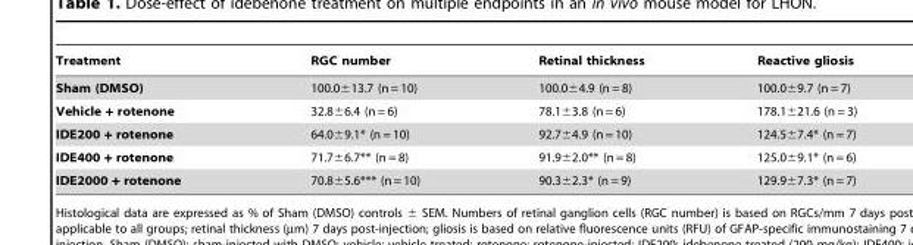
<table><thead><tr><td>Treatment</td><td>RGC number</td><td>Retinal thickness</td><td>Reactive gliosis</td></tr></thead><tbody><tr><td>Sham (DMSO)</td><td>100.0±13.7 (n = 10)</td><td>100.0±4.9 (n = 8)</td><td>100.0±9.7 (n = 7)</td></tr><tr><td>Vehicle + rotenone</td><td>32.8±6.4 (n = 6)</td><td>78.1±3.8 (n = 6)</td><td>178.1±21.6 (n = 3)</td></tr><tr><td>IDE200 + rotenone</td><td>64.0±9.1* (n = 10)</td><td>92.7±4.9 (n = 10)</td><td>124.5±7.4* (n = 7)</td></tr><tr><td>IDE400 + rotenone</td><td>71.7±6.7** (n = 8)</td><td>91.9±2.0** (n = 8)</td><td>125.0±9.1* (n = 6)</td></tr><tr><td>IDE2000 + rotenone</td><td>70.8±5.6*** (n = 10)</td><td>90.3±2.3* (n = 9)</td><td>129.9±7.3* (n = 7)</td></tr></tbody></table>